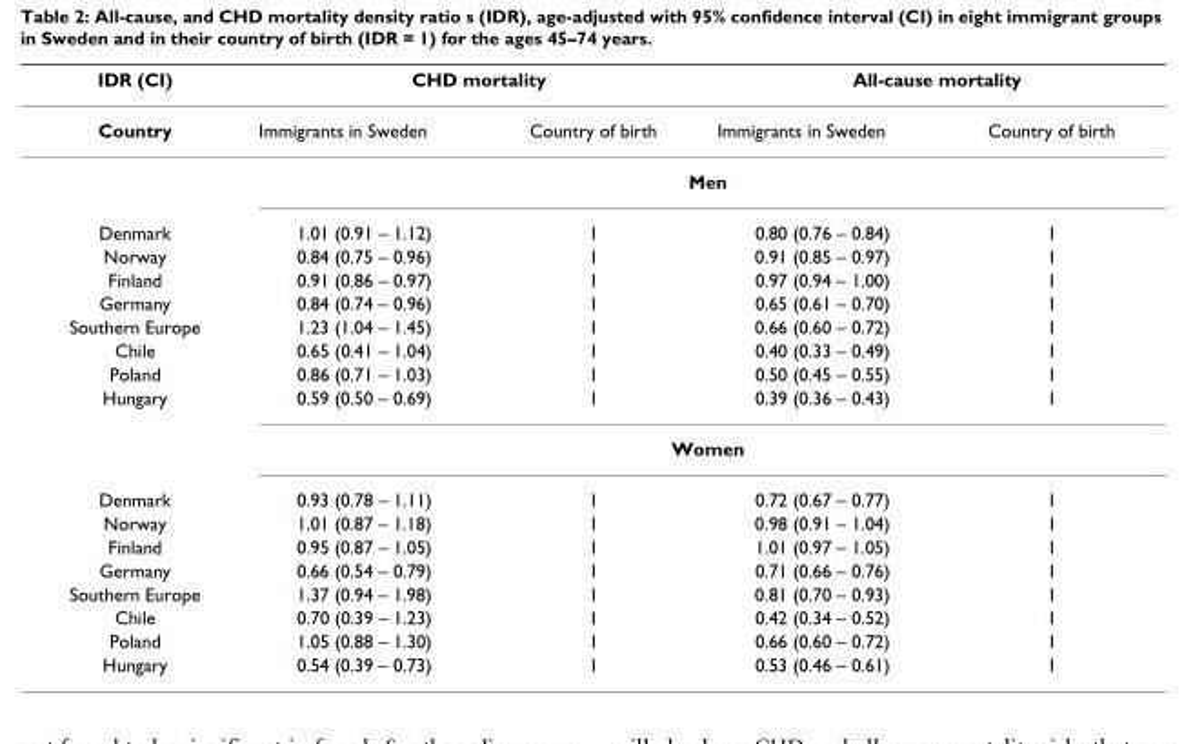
<table><thead><tr><td rowspan="2">IDR (CI) Country</td><td colspan="2">CHD mortality</td><td colspan="2">All-cause mortality</td></tr><tr><td>Immigrants in Sweden</td><td>Country of birth</td><td>Immigrants in Sweden</td><td>Country of birth</td></tr></thead><tbody><tr><td></td><td colspan="4">Men</td></tr><tr><td>Denmark</td><td>1.01 (0.91 – 1.12)</td><td>1</td><td>0.80 (0.76 – 0.84)</td><td>1</td></tr><tr><td>Norway</td><td>0.84 (0.75 – 0.96)</td><td>1</td><td>0.91 (0.85 – 0.97)</td><td>1</td></tr><tr><td>Finland</td><td>0.91 (0.86 – 0.97)</td><td>1</td><td>0.97 (0.94 – 1.00)</td><td>1</td></tr><tr><td>Germany</td><td>0.84 (0.74 – 0.96)</td><td>1</td><td>0.65 (0.61 – 0.70)</td><td>1</td></tr><tr><td>Southern Europe</td><td>1.23 (1.04 – 1.45)</td><td>1</td><td>0.66 (0.60 – 0.72)</td><td>1</td></tr><tr><td>Chile</td><td>0.65 (0.41 – 1.04)</td><td>1</td><td>0.40 (0.33 – 0.49)</td><td>1</td></tr><tr><td>Poland</td><td>0.86 (0.71 – 1.03)</td><td>1</td><td>0.50 (0.45 – 0.55)</td><td>1</td></tr><tr><td rowspan="2">Hungary</td><td>0.59 (0.50 – 0.69)</td><td>1</td><td>0.39 (0.36 – 0.43)</td><td>1</td></tr><tr><td colspan="4">Women</td></tr><tr><td>Denmark</td><td>0.93 (0.78 – 1.11)</td><td>1</td><td>0.72 (0.67 – 0.77)</td><td>1</td></tr><tr><td>Norway</td><td>1.01 (0.87 – 1.18)</td><td>1</td><td>0.98 (0.91 – 1.04)</td><td>1</td></tr><tr><td>Finland</td><td>0.95 (0.87 – 1.05)</td><td>1</td><td>1.01 (0.97 – 1.05)</td><td>1</td></tr><tr><td>Germany</td><td>0.66 (0.54 – 0.79)</td><td>1</td><td>0.71 (0.66 – 0.76)</td><td>1</td></tr><tr><td>Southern Europe</td><td>1.37 (0.94 – 1.98)</td><td>1</td><td>0.81 (0.70 – 0.93)</td><td>1</td></tr><tr><td>Chile</td><td>0.70 (0.39 – 1.23)</td><td>1</td><td>0.42 (0.34 – 0.52)</td><td>1</td></tr><tr><td>Poland</td><td>1.05 (0.88 – 1.30)</td><td>1</td><td>0.66 (0.60 – 0.72)</td><td>1</td></tr><tr><td>Hungary</td><td>0.54 (0.39 – 0.73)</td><td>1</td><td>0.53 (0.46 – 0.61)</td><td>1</td></tr></tbody></table>